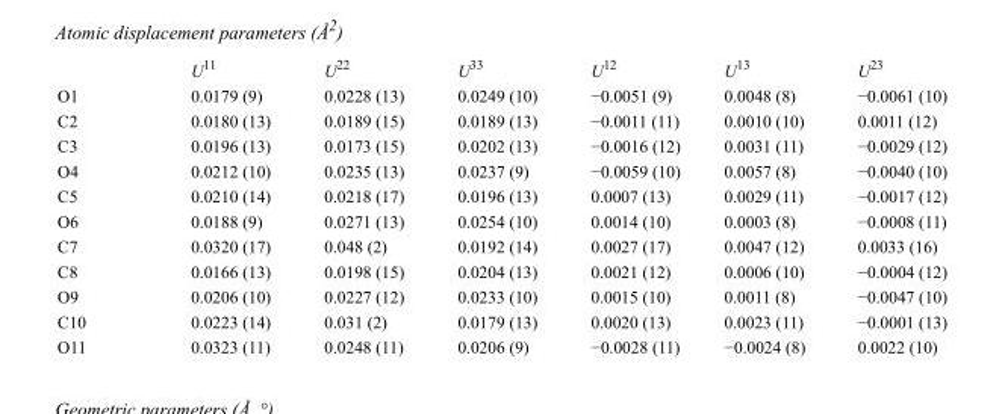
<table><thead><tr><td></td><td>U<sup>11</sup></td><td>U<sup>22</sup></td><td>U<sup>33</sup></td><td>U<sup>12</sup></td><td>U<sup>13</sup></td><td>U<sup>23</sup></td></tr></thead><tbody><tr><td>O1</td><td>0.0179 (9)</td><td>0.0228 (13)</td><td>0.0249 (10)</td><td>−0.0051 (9)</td><td>0.0048 (8)</td><td>−0.0061 (10)</td></tr><tr><td>C2</td><td>0.0180 (13)</td><td>0.0189 (15)</td><td>0.0189 (13)</td><td>−0.0011 (11)</td><td>0.0010 (10)</td><td>0.0011 (12)</td></tr><tr><td>C3</td><td>0.0196 (13)</td><td>0.0173 (15)</td><td>0.0202 (13)</td><td>−0.0016 (12)</td><td>0.0031 (11)</td><td>−0.0029 (12)</td></tr><tr><td>O4</td><td>0.0212 (10)</td><td>0.0235 (13)</td><td>0.0237 (9)</td><td>−0.0059 (10)</td><td>0.0057 (8)</td><td>−0.0040 (10)</td></tr><tr><td>C5</td><td>0.0210 (14)</td><td>0.0218 (17)</td><td>0.0196 (13)</td><td>0.0007 (13)</td><td>0.0029 (11)</td><td>−0.0017 (12)</td></tr><tr><td>O6</td><td>0.0188 (9)</td><td>0.0271 (13)</td><td>0.0254 (10)</td><td>0.0014 (10)</td><td>0.0003 (8)</td><td>−0.0008 (11)</td></tr><tr><td>C7</td><td>0.0320 (17)</td><td>0.048 (2)</td><td>0.0192 (14)</td><td>0.0027 (17)</td><td>0.0047 (12)</td><td>0.0033 (16)</td></tr><tr><td>C8</td><td>0.0166 (13)</td><td>0.0198 (15)</td><td>0.0204 (13)</td><td>0.0021 (12)</td><td>0.0006 (10)</td><td>−0.0004 (12)</td></tr><tr><td>O9</td><td>0.0206 (10)</td><td>0.0227 (12)</td><td>0.0233 (10)</td><td>0.0015 (10)</td><td>0.0011 (8)</td><td>−0.0047 (10)</td></tr><tr><td>C10</td><td>0.0223 (14)</td><td>0.031 (2)</td><td>0.0179 (13)</td><td>0.0020 (13)</td><td>0.0023 (11)</td><td>−0.0001 (13)</td></tr><tr><td>O11</td><td>0.0323 (11)</td><td>0.0248 (11)</td><td>0.0206 (9)</td><td>−0.0028 (11)</td><td>−0.0024 (8)</td><td>0.0022 (10)</td></tr></tbody></table>